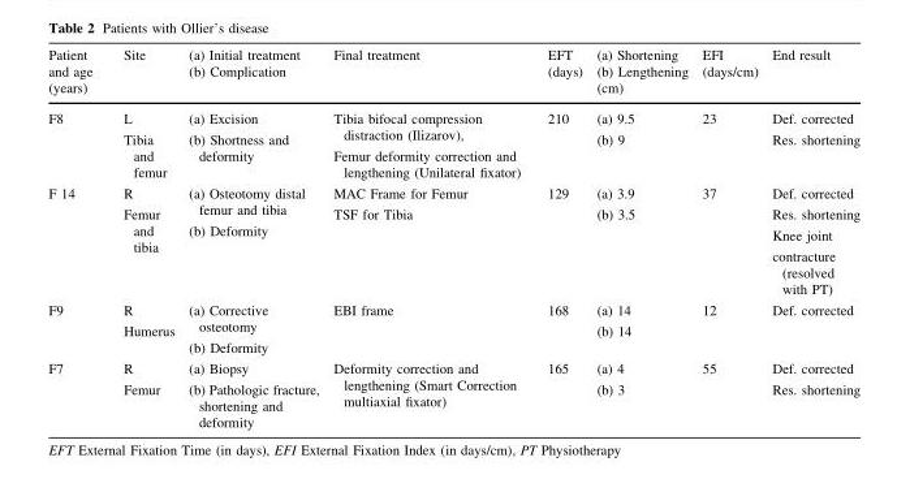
<table><thead><tr><td>Patient and age (years)</td><td>Site</td><td>(a) Initial treatment (b) Complication</td><td>Final treatment</td><td>EFT (days)</td><td>(a) Shortening (b) Lengthening (cm)</td><td>EFI (days/cm)</td><td>End result</td></tr></thead><tbody><tr><td>F8</td><td>L Tibia and femur</td><td>(a) Excision (b) Shortness and deformity</td><td>Tibia bifocal compression distraction (Ilizarov), Femur deformity correction and lengthening (Unilateral fixator)</td><td>210</td><td>(a) 9.5 (b) 9</td><td>23</td><td>Def. corrected Res. shortening</td></tr><tr><td>F 14</td><td>R Femur and tibia</td><td>(a) Osteotomy distal femur and tibia (b) Deformity</td><td>MAC Frame for Femur TSF for Tibia</td><td>129</td><td>(a) 3.9 (b) 3.5</td><td>37</td><td>Def. corrected Res. shortening Knee joint contracture (resolved with PT)</td></tr><tr><td>F9</td><td>R Humerus</td><td>(a) Corrective osteotomy (b) Deformity</td><td>EBI frame</td><td>168</td><td>(a) 14 (b) 14</td><td>12</td><td>Def. corrected</td></tr><tr><td>F7</td><td>R Femur</td><td>(a) Biopsy (b) Pathologic fracture, shortening and deformity</td><td>Deformity correction and lengthening (Smart Correction multiaxial fixator)</td><td>165</td><td>(a) 4 (b) 3</td><td>55</td><td>Def. corrected Res. shortening</td></tr></tbody></table>